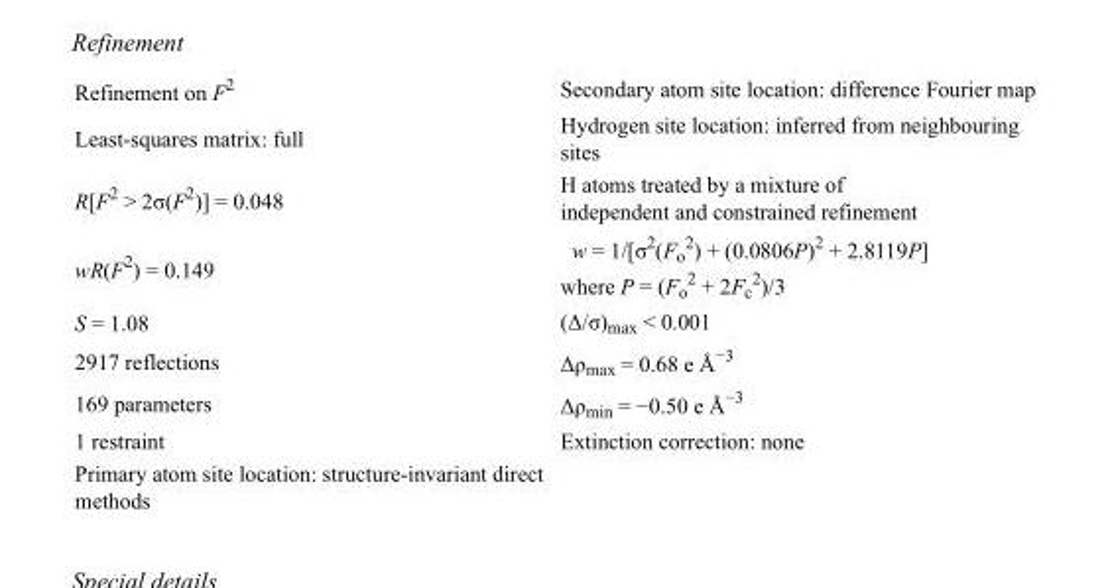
<table><tbody><tr><td>Refinement on F<sup>2</sup></td><td>Secondary atom site location: difference Fourier map</td></tr><tr><td>Least-squares matrix: full</td><td>Hydrogen site location: inferred from neighbouring sites</td></tr><tr><td>R[F<sup>2</sup> &gt; 2σ(F<sup>2</sup>)] = 0.048</td><td>H atoms treated by a mixture of independent and constrained refinement</td></tr><tr><td>wR(F<sup>2</sup>) = 0.149</td><td>w = 1/[σ<sup>2</sup>(F<sub>o</sub> <sup>2</sup>) + (0.0806P)<sup>2</sup> + 2.8119P] where P = (F<sub>o</sub> <sup>2</sup> + 2F<sub>c</sub> <sup>2</sup>)/3</td></tr><tr><td>S = 1.08</td><td>(Δ/σ)<sub>max</sub> &lt; 0.001</td></tr><tr><td>2917 reflections</td><td>Δρ<sub>max</sub> = 0.68 e Å<sup>−3</sup></td></tr><tr><td>169 parameters</td><td>Δρ<sub>min</sub> = −0.50 e Å<sup>−3</sup></td></tr><tr><td>1 restraint</td><td>Extinction correction: none</td></tr><tr><td>Primary atom site location: structure-invariant direct methods</td><td></td></tr></tbody></table>